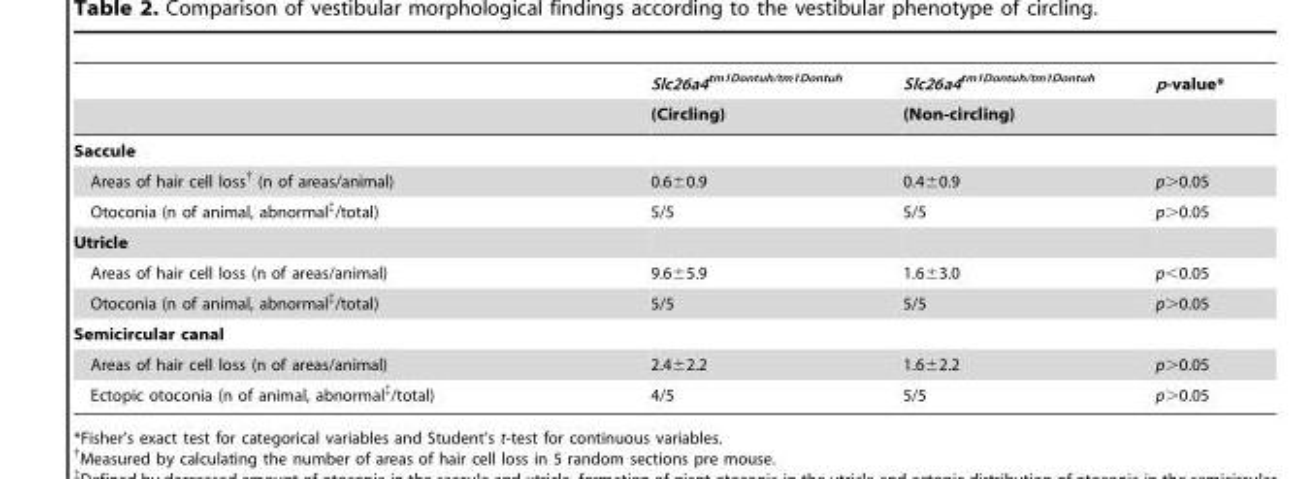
<table><thead><tr><td rowspan="2"></td><td rowspan="2">Slc26a4<sup>tm1Dontuh/tm1Dontuh</sup> (Circling)</td><td rowspan="2">Slc26a4<sup>tm1Dontuh/tm1Dontuh</sup> (Non-circling)</td><td rowspan="2">p-value*</td></tr><tr></tr></thead><tbody><tr><td colspan="4">Saccule</td></tr><tr><td>Areas of hair cell loss† (n of areas/animal)</td><td>0.6±0.9</td><td>0.4±0.9</td><td>p&gt;0.05</td></tr><tr><td>Otoconia (n of animal, abnormal‡/total)</td><td>5/5</td><td>5/5</td><td>p&gt;0.05</td></tr><tr><td colspan="4">Utricle</td></tr><tr><td>Areas of hair cell loss (n of areas/animal)</td><td>9.6±5.9</td><td>1.6±3.0</td><td>p&lt;0.05</td></tr><tr><td>Otoconia (n of animal, abnormal‡/total)</td><td>5/5</td><td>5/5</td><td>p&gt;0.05</td></tr><tr><td colspan="4">Semicircular canal</td></tr><tr><td>Areas of hair cell loss (n of areas/animal)</td><td>2.4±2.2</td><td>1.6±2.2</td><td>p&gt;0.05</td></tr><tr><td>Ectopic otoconia (n of animal, abnormal‡/total)</td><td>4/5</td><td>5/5</td><td>p&gt;0.05</td></tr></tbody></table>